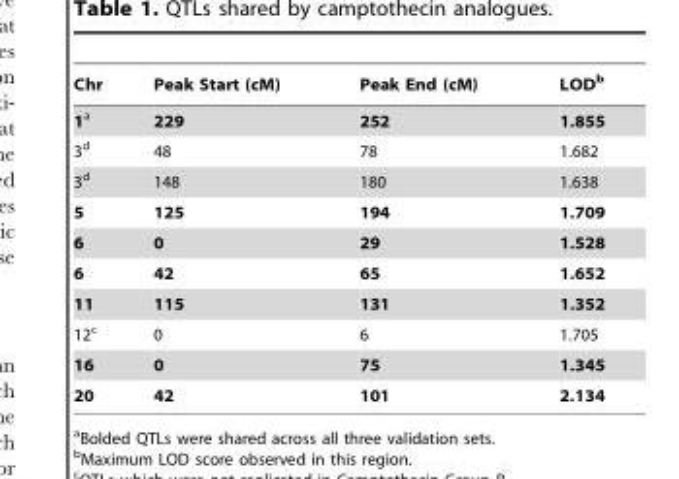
<table><thead><tr><td>Chr</td><td>Peak Start (cM)</td><td>Peak End (cM)</td><td>LOD<sup>b</sup></td></tr></thead><tbody><tr><td>1a</td><td>229</td><td>252</td><td>1.855</td></tr><tr><td>3<sup>d</sup></td><td>48</td><td>78</td><td>1.682</td></tr><tr><td>3<sup>d</sup></td><td>148</td><td>180</td><td>1.638</td></tr><tr><td>5</td><td>125</td><td>194</td><td>1.709</td></tr><tr><td>6</td><td>0</td><td>29</td><td>1.528</td></tr><tr><td>6</td><td>42</td><td>65</td><td>1.652</td></tr><tr><td>11</td><td>115</td><td>131</td><td>1.352</td></tr><tr><td>12<sup>c</sup></td><td>0</td><td>6</td><td>1.705</td></tr><tr><td>16</td><td>0</td><td>75</td><td>1.345</td></tr><tr><td>20</td><td>42</td><td>101</td><td>2.134</td></tr></tbody></table>